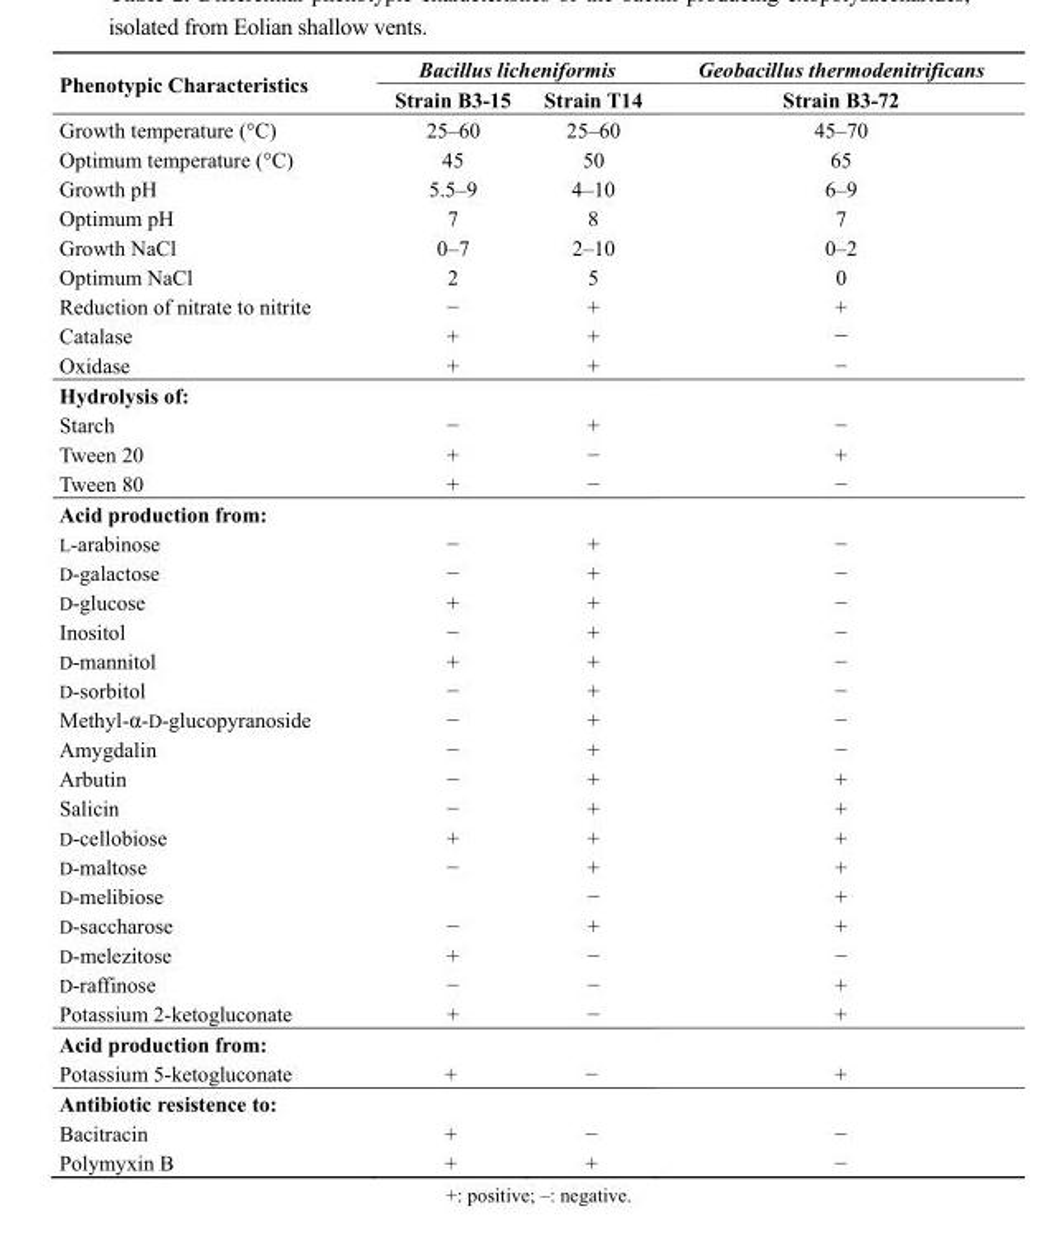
<table><thead><tr><td rowspan="2">Phenotypic Characteristics</td><td colspan="2">Bacillus licheniformis</td><td rowspan="2">Geobacillus thermodenitrificans Strain B3-72</td></tr><tr><td>Strain B3-15</td><td>Strain T14</td></tr></thead><tbody><tr><td>Growth temperature (°C)</td><td>25–60</td><td>25–60</td><td>45–70</td></tr><tr><td>Optimum temperature (°C)</td><td>45</td><td>50</td><td>65</td></tr><tr><td>Growth pH</td><td>5.5–9</td><td>4–10</td><td>6–9</td></tr><tr><td>Optimum pH</td><td>7</td><td>8</td><td>7</td></tr><tr><td>Growth NaCl</td><td>0–7</td><td>2–10</td><td>0–2</td></tr><tr><td>Optimum NaCl</td><td>2</td><td>5</td><td>0</td></tr><tr><td>Reduction of nitrate to nitrite</td><td>−</td><td>+</td><td>+</td></tr><tr><td>Catalase</td><td>+</td><td>+</td><td>−</td></tr><tr><td>Oxidase</td><td>+</td><td>+</td><td>−</td></tr><tr><td colspan="4">Hydrolysis of:</td></tr><tr><td>Starch</td><td>−</td><td>+</td><td>−</td></tr><tr><td>Tween 20</td><td>+</td><td>−</td><td>+</td></tr><tr><td>Tween 80</td><td>+</td><td>−</td><td>−</td></tr><tr><td colspan="4">Acid production from:</td></tr><tr><td>L-arabinose</td><td>−</td><td>+</td><td>−</td></tr><tr><td>D-galactose</td><td>−</td><td>+</td><td>−</td></tr><tr><td>D-glucose</td><td>+</td><td>+</td><td>−</td></tr><tr><td>Inositol</td><td>−</td><td>+</td><td>−</td></tr><tr><td>D-mannitol</td><td>+</td><td>+</td><td>−</td></tr><tr><td>D-sorbitol</td><td>−</td><td>+</td><td>−</td></tr><tr><td>Methyl-α-D-glucopyranoside</td><td>−</td><td>+</td><td>−</td></tr><tr><td>Amygdalin</td><td>−</td><td>+</td><td>−</td></tr><tr><td>Arbutin</td><td>−</td><td>+</td><td>+</td></tr><tr><td>Salicin</td><td>−</td><td>+</td><td>+</td></tr><tr><td>D-cellobiose</td><td>+</td><td>+</td><td>+</td></tr><tr><td>D-maltose</td><td>−</td><td>+</td><td>+</td></tr><tr><td>D-melibiose</td><td></td><td>−</td><td>+</td></tr><tr><td>D-saccharose</td><td>−</td><td>+</td><td>+</td></tr><tr><td>D-melezitose</td><td>+</td><td>−</td><td>−</td></tr><tr><td>D-raffinose</td><td>−</td><td>−</td><td>+</td></tr><tr><td>Potassium 2-ketogluconate</td><td>+</td><td>−</td><td>+</td></tr><tr><td colspan="4">Acid production from:</td></tr><tr><td>Potassium 5-ketogluconate</td><td>+</td><td>−</td><td>+</td></tr><tr><td colspan="4">Antibiotic resistence to:</td></tr><tr><td>Bacitracin</td><td>+</td><td>−</td><td>−</td></tr><tr><td>Polymyxin B</td><td>+</td><td>+</td><td>−</td></tr></tbody></table>